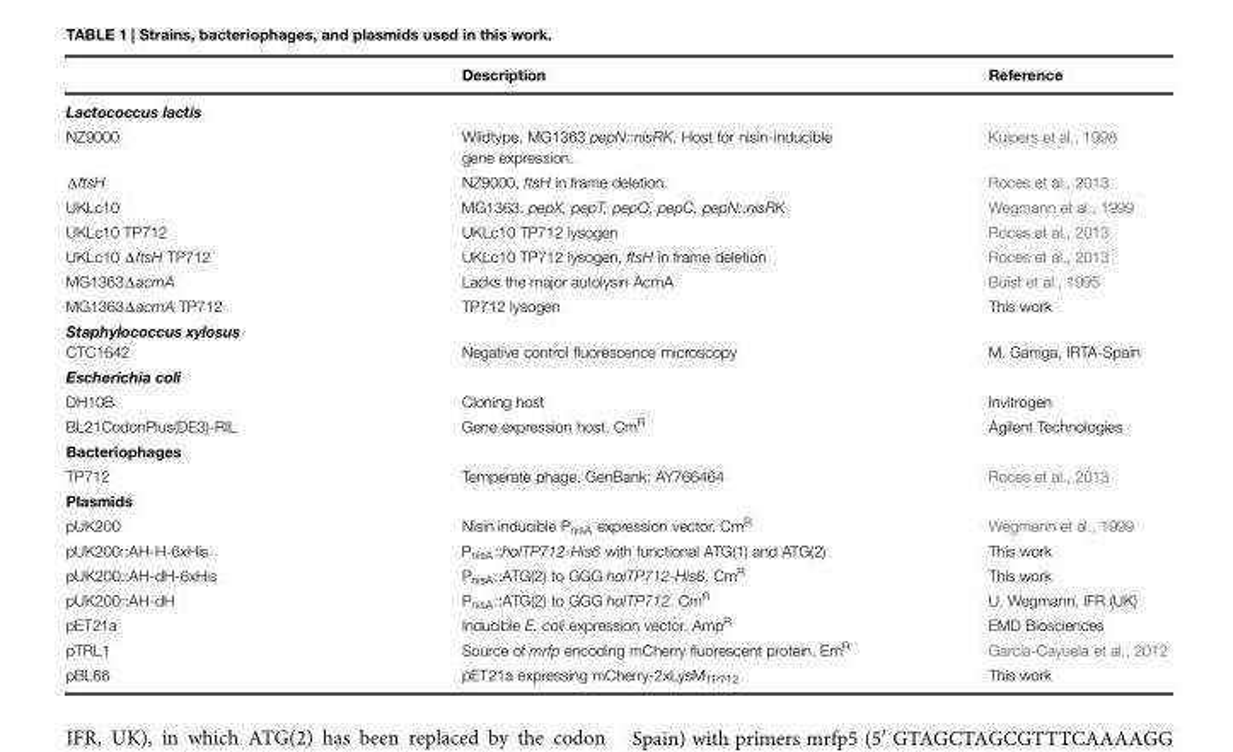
<table><thead><tr><td></td><td>Description</td><td>Reference</td></tr></thead><tbody><tr><td colspan="3">Lactococcus lactis</td></tr><tr><td>NZ9000</td><td>Wildtype, MG1363 pepN::nisRK. Host for nisin-inducible gene expression.</td><td>Kuipers et al., 1998</td></tr><tr><td>ΔftsH</td><td>NZ9000, ftsH in frame deletion.</td><td>Roces et al., 2013</td></tr><tr><td>UKLc10</td><td>MG1363, pepX, pepT, pepO, pepC, pepN::nisRK</td><td>Wegmann et al., 1999</td></tr><tr><td>UKLc10 TP712</td><td>UKLc10 TP712 lysogen</td><td>Roces et al., 2013</td></tr><tr><td>UKLc10 ΔftsH TP712</td><td>UKLc10 TP712 lysogen, ftsH in frame deletion</td><td>Roces et al., 2013</td></tr><tr><td>MG1363ΔacmA</td><td>Lacks the major autolysin AcmA</td><td>Buist et al., 1995</td></tr><tr><td>MG1363ΔacmA TP712</td><td>TP712 lysogen</td><td>This work</td></tr><tr><td colspan="3">Staphylococcus xylosus</td></tr><tr><td>CTC1642</td><td>Negative control fluorescence microscopy</td><td>M. Garriga, IRTA-Spain</td></tr><tr><td colspan="3">Escherichia coli</td></tr><tr><td>DH10B</td><td>Cloning host</td><td>Invitrogen</td></tr><tr><td>BL21CodonPlus(DE3)-RIL</td><td>Gene expression host. Cm<sup>R</sup></td><td>Agilent Technologies</td></tr><tr><td colspan="3">Bacteriophages</td></tr><tr><td>TP712</td><td>Temperate phage. GenBank: AY766464</td><td>Roces et al., 2013</td></tr><tr><td colspan="3">Plasmids</td></tr><tr><td>pUK200</td><td>Nisin inducible P<sub>nisA</sub> expression vector. Cm<sup>R</sup></td><td>Wegmann et al., 1999</td></tr><tr><td>pUK200::AH-H-6xHis</td><td>P<sub>nisA</sub>::holTP712-His6 with functional ATG(1) and ATG(2)</td><td>This work</td></tr><tr><td>pUK200::AH-dH-6xHis</td><td>P<sub>nisA</sub>::ATG(2) to GGG holTP712-His6. Cm<sup>R</sup></td><td>This work</td></tr><tr><td>pUK200::AH-dH</td><td>P<sub>nisA</sub>::ATG(2) to GGG holTP712. Cm<sup>R</sup></td><td>U. Wegmann, IFR (UK)</td></tr><tr><td>pET21a</td><td>Inducible E. coli expression vector. Amp<sup>R</sup></td><td>EMD Biosciences</td></tr><tr><td>pTRL1</td><td>Source of mrfp encoding mCherry fluorescent protein. Em<sup>R</sup></td><td>García-Cayuela et al., 2012</td></tr><tr><td>pBL66</td><td>pET21a expressing mCherry-2xLysM<sub>TP712</sub></td><td>This work</td></tr></tbody></table>